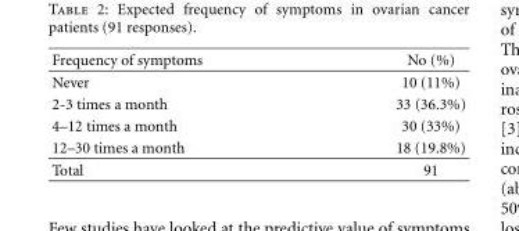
<table><thead><tr><td>Frequency of symptoms</td><td>No (%)</td></tr></thead><tbody><tr><td>Never</td><td>10 (11%)</td></tr><tr><td>2-3 times a month</td><td>33 (36.3%)</td></tr><tr><td>4–12 times a month</td><td>30 (33%)</td></tr><tr><td>12–30 times a month</td><td>18 (19.8%)</td></tr><tr><td>Total</td><td>91</td></tr></tbody></table>